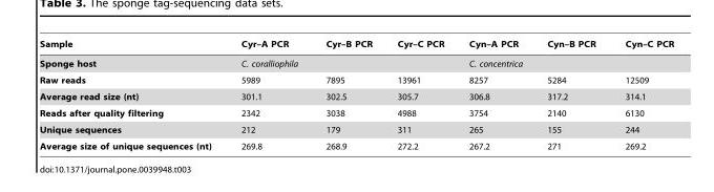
<table><thead><tr><td>Sample</td><td>Cyr–A PCR</td><td>Cyr–B PCR</td><td>Cyr–C PCR</td><td>Cyn–A PCR</td><td>Cyn–B PCR</td><td>Cyn–C PCR</td></tr></thead><tbody><tr><td>Sponge host</td><td colspan="3">C. coralliophila</td><td colspan="3">C. concentrica</td></tr><tr><td>Raw reads</td><td>5989</td><td>7895</td><td>13961</td><td>8257</td><td>5284</td><td>12509</td></tr><tr><td>Average read size (nt)</td><td>301.1</td><td>302.5</td><td>305.7</td><td>306.8</td><td>317.2</td><td>314.1</td></tr><tr><td>Reads after quality filtering</td><td>2342</td><td>3038</td><td>4988</td><td>3754</td><td>2140</td><td>6130</td></tr><tr><td>Unique sequences</td><td>212</td><td>179</td><td>311</td><td>265</td><td>155</td><td>244</td></tr><tr><td>Average size of unique sequences (nt)</td><td>269.8</td><td>268.9</td><td>272.2</td><td>267.2</td><td>271</td><td>269.2</td></tr></tbody></table>